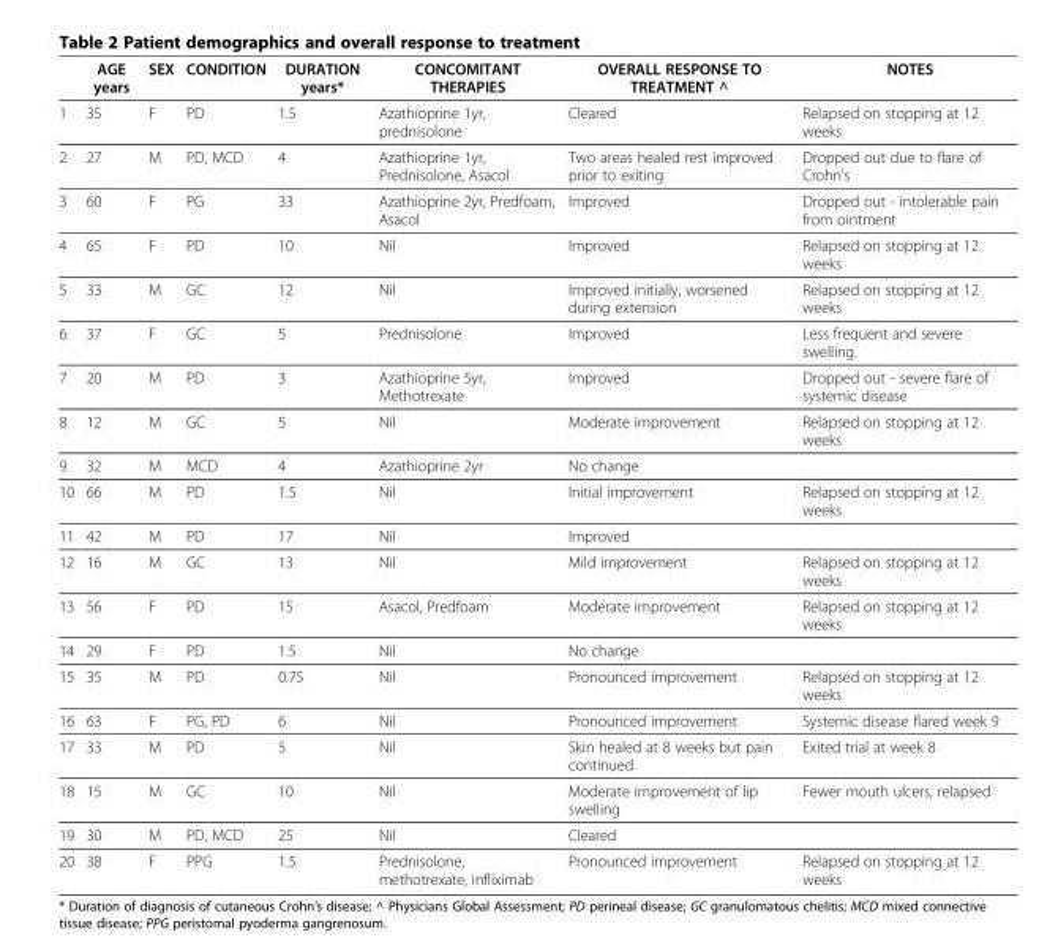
<table><thead><tr><td></td><td>AGE years</td><td>SEX</td><td>CONDITION</td><td>DURATION years*</td><td>CONCOMITANT THERAPIES</td><td>OVERALL RESPONSE TO TREATMENT ^</td><td>NOTES</td></tr></thead><tbody><tr><td>1</td><td>35</td><td>F</td><td>PD</td><td>1.5</td><td>Azathioprine 1yr, prednisolone</td><td>Cleared</td><td>Relapsed on stopping at 12 weeks</td></tr><tr><td>2</td><td>27</td><td>M</td><td>PD, MCD</td><td>4</td><td>Azathioprine 1yr, Prednisolone, Asacol</td><td>Two areas healed rest improved prior to exiting</td><td>Dropped out due to flare of Crohn’s</td></tr><tr><td>3</td><td>60</td><td>F</td><td>PG</td><td>33</td><td>Azathioprine 2yr, Predfoam, Asacol</td><td>Improved</td><td>Dropped out - intolerable pain from ointment</td></tr><tr><td>4</td><td>65</td><td>F</td><td>PD</td><td>10</td><td>Nil</td><td>Improved</td><td>Relapsed on stopping at 12 weeks</td></tr><tr><td>5</td><td>33</td><td>M</td><td>GC</td><td>12</td><td>Nil</td><td>Improved initially, worsened during extension</td><td>Relapsed on stopping at 12 weeks</td></tr><tr><td>6</td><td>37</td><td>F</td><td>GC</td><td>5</td><td>Prednisolone</td><td>Improved</td><td>Less frequent and severe swelling.</td></tr><tr><td>7</td><td>20</td><td>M</td><td>PD</td><td>3</td><td>Azathioprine 5yr, Methotrexate</td><td>Improved</td><td>Dropped out - severe flare of systemic disease</td></tr><tr><td>8</td><td>12</td><td>M</td><td>GC</td><td>5</td><td>Nil</td><td>Moderate improvement</td><td>Relapsed on stopping at 12 weeks</td></tr><tr><td>9</td><td>32</td><td>M</td><td>MCD</td><td>4</td><td>Azathioprine 2yr</td><td>No change</td><td></td></tr><tr><td>10</td><td>66</td><td>M</td><td>PD</td><td>1.5</td><td>Nil</td><td>Initial improvement</td><td>Relapsed on stopping at 12 weeks</td></tr><tr><td>11</td><td>42</td><td>M</td><td>PD</td><td>17</td><td>Nil</td><td>Improved</td><td></td></tr><tr><td>12</td><td>16</td><td>M</td><td>GC</td><td>13</td><td>Nil</td><td>Mild improvement</td><td>Relapsed on stopping at 12 weeks</td></tr><tr><td>13</td><td>56</td><td>F</td><td>PD</td><td>15</td><td>Asacol, Predfoam</td><td>Moderate improvement</td><td>Relapsed on stopping at 12 weeks</td></tr><tr><td>14</td><td>29</td><td>F</td><td>PD</td><td>1.5</td><td>Nil</td><td>No change</td><td></td></tr><tr><td>15</td><td>35</td><td>M</td><td>PD</td><td>0.75</td><td>Nil</td><td>Pronounced improvement</td><td>Relapsed on stopping at 12 weeks</td></tr><tr><td>16</td><td>63</td><td>F</td><td>PG, PD</td><td>6</td><td>Nil</td><td>Pronounced improvement</td><td>Systemic disease flared week 9</td></tr><tr><td>17</td><td>33</td><td>M</td><td>PD</td><td>5</td><td>Nil</td><td>Skin healed at 8 weeks but pain continued</td><td>Exited trial at week 8</td></tr><tr><td>18</td><td>15</td><td>M</td><td>GC</td><td>10</td><td>Nil</td><td>Moderate improvement of lip swelling</td><td>Fewer mouth ulcers, relapsed</td></tr><tr><td>19</td><td>30</td><td>M</td><td>PD, MCD</td><td>25</td><td>Nil</td><td>Cleared</td><td></td></tr><tr><td>20</td><td>38</td><td>F</td><td>PPG</td><td>1.5</td><td>Prednisolone, methotrexate, infliximab</td><td>Pronounced improvement</td><td>Relapsed on stopping at 12 weeks</td></tr></tbody></table>